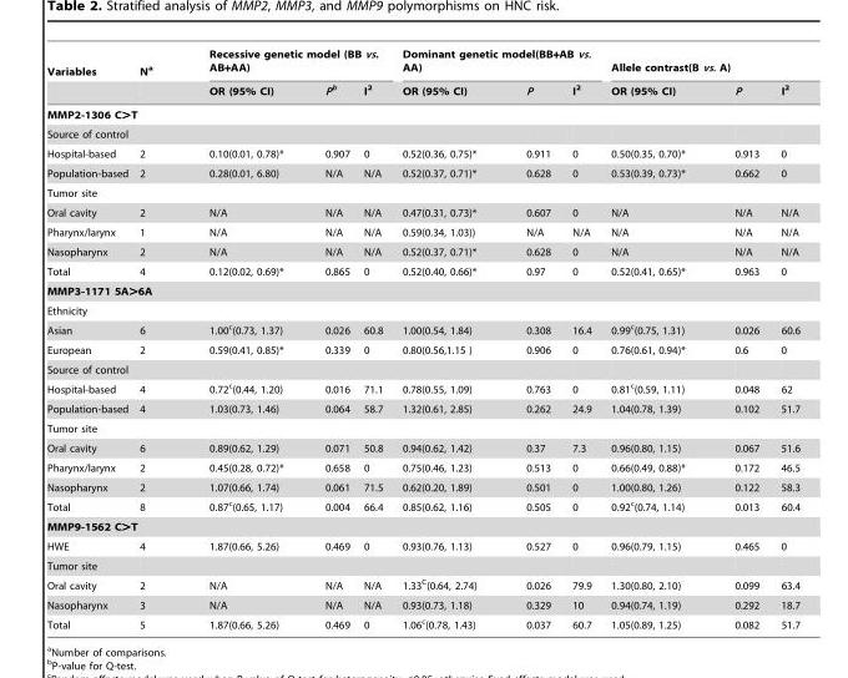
<table><thead><tr><td rowspan="2">Variables</td><td rowspan="2">N<sup>a</sup></td><td colspan="3">Recessive genetic model (BB vs. AB+AA)</td><td colspan="3">Dominant genetic model(BB+AB vs. AA)</td><td colspan="3">Allele contrast(B vs. A)</td></tr><tr><td>OR (95% CI)</td><td>Pb</td><td>I<sup>2</sup></td><td>OR (95% CI)</td><td>P</td><td>I<sup>2</sup></td><td>OR (95% CI)</td><td>P</td><td>I<sup>2</sup></td></tr></thead><tbody><tr><td colspan="11">MMP2-1306 C&gt;T</td></tr><tr><td colspan="11">Source of control</td></tr><tr><td>Hospital-based</td><td>2</td><td>0.10(0.01, 0.78)*</td><td>0.907</td><td>0</td><td>0.52(0.36, 0.75)*</td><td>0.911</td><td>0</td><td>0.50(0.35, 0.70)*</td><td>0.913</td><td>0</td></tr><tr><td>Population-based</td><td>2</td><td>0.28(0.01, 6.80)</td><td>N/A</td><td>N/A</td><td>0.52(0.37, 0.71)*</td><td>0.628</td><td>0</td><td>0.53(0.39, 0.73)*</td><td>0.662</td><td>0</td></tr><tr><td colspan="11">Tumor site</td></tr><tr><td>Oral cavity</td><td>2</td><td>N/A</td><td>N/A</td><td>N/A</td><td>0.47(0.31, 0.73)*</td><td>0.607</td><td>0</td><td>N/A</td><td>N/A</td><td>N/A</td></tr><tr><td>Pharynx/larynx</td><td>1</td><td>N/A</td><td>N/A</td><td>N/A</td><td>0.59(0.34, 1.03))</td><td>N/A</td><td>N/A</td><td>N/A</td><td>N/A</td><td>N/A</td></tr><tr><td>Nasopharynx</td><td>2</td><td>N/A</td><td>N/A</td><td>N/A</td><td>0.52(0.37, 0.71)*</td><td>0.628</td><td>0</td><td>N/A</td><td>N/A</td><td>N/A</td></tr><tr><td>Total</td><td>4</td><td>0.12(0.02, 0.69)*</td><td>0.865</td><td>0</td><td>0.52(0.40, 0.66)*</td><td>0.97</td><td>0</td><td>0.52(0.41, 0.65)*</td><td>0.963</td><td>0</td></tr><tr><td colspan="11">MMP3-1171 5A&gt;6A</td></tr><tr><td colspan="11">Ethnicity</td></tr><tr><td>Asian</td><td>6</td><td>1.00<sup>c</sup>(0.73, 1.37)</td><td>0.026</td><td>60.8</td><td>1.00(0.54, 1.84)</td><td>0.308</td><td>16.4</td><td>0.99<sup>c</sup>(0.75, 1.31)</td><td>0.026</td><td>60.6</td></tr><tr><td>European</td><td>2</td><td>0.59(0.41, 0.85)*</td><td>0.339</td><td>0</td><td>0.80(0.56,1.15 )</td><td>0.906</td><td>0</td><td>0.76(0.61, 0.94)*</td><td>0.6</td><td>0</td></tr><tr><td colspan="11">Source of control</td></tr><tr><td>Hospital-based</td><td>4</td><td>0.72<sup>c</sup>(0.44, 1.20)</td><td>0.016</td><td>71.1</td><td>0.78(0.55, 1.09)</td><td>0.763</td><td>0</td><td>0.81<sup>c</sup>(0.59, 1.11)</td><td>0.048</td><td>62</td></tr><tr><td>Population-based</td><td>4</td><td>1.03(0.73, 1.46)</td><td>0.064</td><td>58.7</td><td>1.32(0.61, 2.85)</td><td>0.262</td><td>24.9</td><td>1.04(0.78, 1.39)</td><td>0.102</td><td>51.7</td></tr><tr><td colspan="11">Tumor site</td></tr><tr><td>Oral cavity</td><td>6</td><td>0.89(0.62, 1.29)</td><td>0.071</td><td>50.8</td><td>0.94(0.62, 1.42)</td><td>0.37</td><td>7.3</td><td>0.96(0.80, 1.15)</td><td>0.067</td><td>51.6</td></tr><tr><td>Pharynx/larynx</td><td>2</td><td>0.45(0.28, 0.72)*</td><td>0.658</td><td>0</td><td>0.75(0.46, 1.23)</td><td>0.513</td><td>0</td><td>0.66(0.49, 0.88)*</td><td>0.172</td><td>46.5</td></tr><tr><td>Nasopharynx</td><td>2</td><td>1.07(0.66, 1.74)</td><td>0.061</td><td>71.5</td><td>0.62(0.20, 1.89)</td><td>0.501</td><td>0</td><td>1.00(0.80, 1.26)</td><td>0.122</td><td>58.3</td></tr><tr><td>Total</td><td>8</td><td>0.87<sup>c</sup>(0.65, 1.17)</td><td>0.004</td><td>66.4</td><td>0.85(0.62, 1.16)</td><td>0.505</td><td>0</td><td>0.92<sup>c</sup>(0.74, 1.14)</td><td>0.013</td><td>60.4</td></tr><tr><td colspan="11">MMP9-1562 C&gt;T</td></tr><tr><td>HWE</td><td>4</td><td>1.87(0.66, 5.26)</td><td>0.469</td><td>0</td><td>0.93(0.76, 1.13)</td><td>0.527</td><td>0</td><td>0.96(0.79, 1.15)</td><td>0.465</td><td>0</td></tr><tr><td colspan="11">Tumor site</td></tr><tr><td>Oral cavity</td><td>2</td><td>N/A</td><td>N/A</td><td>N/A</td><td>1.33<sup>C</sup>(0.64, 2.74)</td><td>0.026</td><td>79.9</td><td>1.30(0.80, 2.10)</td><td>0.099</td><td>63.4</td></tr><tr><td>Nasopharynx</td><td>3</td><td>N/A</td><td>N/A</td><td>N/A</td><td>0.93(0.73, 1.18)</td><td>0.329</td><td>10</td><td>0.94(0.74, 1.19)</td><td>0.292</td><td>18.7</td></tr><tr><td>Total</td><td>5</td><td>1.87(0.66, 5.26)</td><td>0.469</td><td>0</td><td>1.06<sup>c</sup>(0.78, 1.43)</td><td>0.037</td><td>60.7</td><td>1.05(0.89, 1.25)</td><td>0.082</td><td>51.7</td></tr></tbody></table>